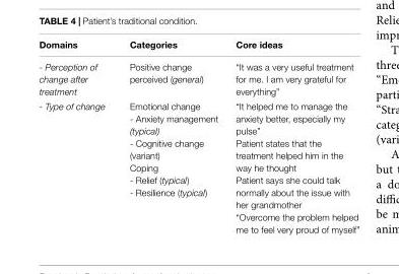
<table><thead><tr><td>Domains</td><td>Categories</td><td>Core ideas</td></tr></thead><tbody><tr><td>- Perception of change after treatment</td><td>Positive change perceived (general)</td><td>“It was a very useful treatment for me. I am very grateful for everything”</td></tr><tr><td>- Type of change</td><td>Emotional change - Anxiety management (typical) - Cognitive change (variant) Coping - Relief (typical) - Resilience (typical)</td><td>“It helped me to manage the anxiety better, especially my pulse” Patient states that the treatment helped him in the way he thought Patient says she could talk normally about the issue with her grandmother “Overcome the problem helped me to feel very proud of myself”</td></tr></tbody></table>